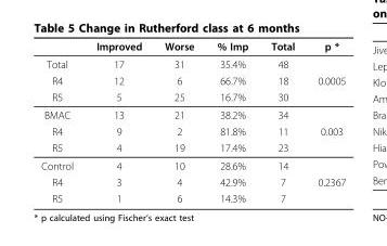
<table><thead><tr><td></td><td>Improved</td><td>Worse</td><td>% Imp</td><td>Total</td><td>p *</td></tr></thead><tbody><tr><td>Total</td><td>17</td><td>31</td><td>35.4%</td><td>48</td><td></td></tr><tr><td>R4</td><td>12</td><td>6</td><td>66.7%</td><td>18</td><td>0.0005</td></tr><tr><td>R5</td><td>5</td><td>25</td><td>16.7%</td><td>30</td><td></td></tr><tr><td>BMAC</td><td>13</td><td>21</td><td>38.2%</td><td>34</td><td></td></tr><tr><td>R4</td><td>9</td><td>2</td><td>81.8%</td><td>11</td><td>0.003</td></tr><tr><td>R5</td><td>4</td><td>19</td><td>17.4%</td><td>23</td><td></td></tr><tr><td>Control</td><td>4</td><td>10</td><td>28.6%</td><td>14</td><td></td></tr><tr><td>R4</td><td>3</td><td>4</td><td>42.9%</td><td>7</td><td>0.2367</td></tr><tr><td>R5</td><td>1</td><td>6</td><td>14.3%</td><td>7</td><td></td></tr></tbody></table>